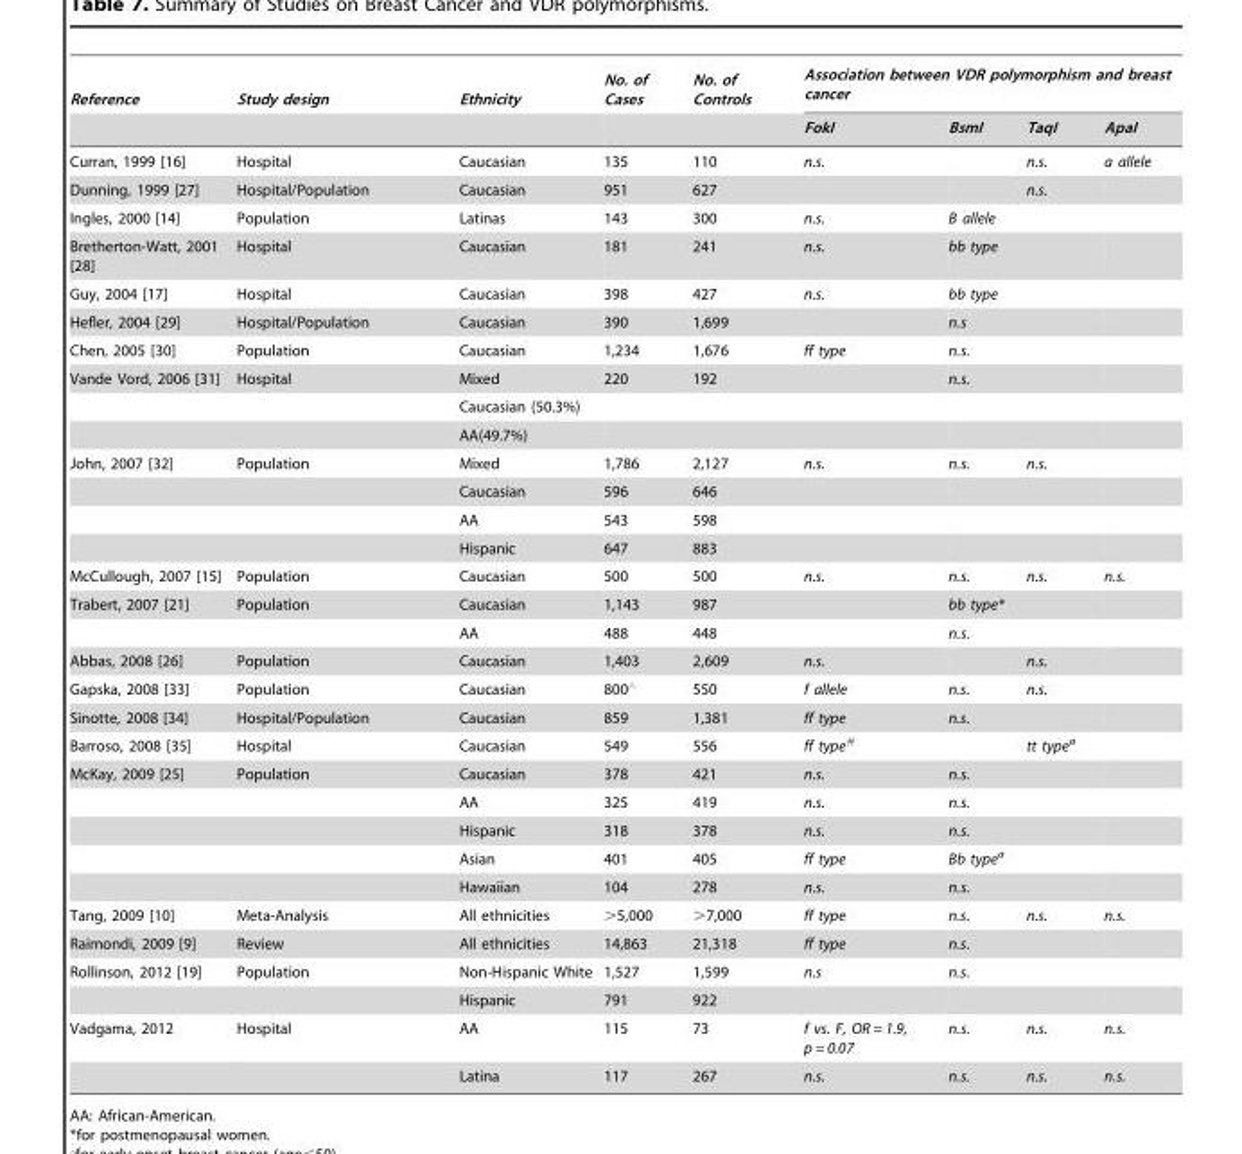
<table><thead><tr><td rowspan="2">Reference</td><td rowspan="2">Study design</td><td rowspan="2">Ethnicity</td><td rowspan="2">No. of Cases</td><td rowspan="2">No. of Controls</td><td colspan="4">Association between VDR polymorphism and breast cancer</td></tr><tr><td>FokI</td><td>BsmI</td><td>TaqI</td><td>ApaI</td></tr></thead><tbody><tr><td>Curran, 1999 [16]</td><td>Hospital</td><td>Caucasian</td><td>135</td><td>110</td><td>n.s.</td><td></td><td>n.s.</td><td>a allele</td></tr><tr><td>Dunning, 1999 [27]</td><td>Hospital/Population</td><td>Caucasian</td><td>951</td><td>627</td><td></td><td></td><td>n.s.</td><td></td></tr><tr><td>Ingles, 2000 [14]</td><td>Population</td><td>Latinas</td><td>143</td><td>300</td><td>n.s.</td><td>B allele</td><td></td><td></td></tr><tr><td>Bretherton-Watt, 2001 [28]</td><td>Hospital</td><td>Caucasian</td><td>181</td><td>241</td><td>n.s.</td><td>bb type</td><td></td><td></td></tr><tr><td>Guy, 2004 [17]</td><td>Hospital</td><td>Caucasian</td><td>398</td><td>427</td><td>n.s.</td><td>bb type</td><td></td><td></td></tr><tr><td>Hefler, 2004 [29]</td><td>Hospital/Population</td><td>Caucasian</td><td>390</td><td>1,699</td><td></td><td>n.s</td><td></td><td></td></tr><tr><td>Chen, 2005 [30]</td><td>Population</td><td>Caucasian</td><td>1,234</td><td>1,676</td><td>ff type</td><td>n.s.</td><td></td><td></td></tr><tr><td rowspan="3">Vande Vord, 2006 [31]</td><td>Hospital</td><td>Mixed</td><td>220</td><td>192</td><td></td><td>n.s.</td><td></td><td></td></tr><tr><td></td><td>Caucasian (50.3%)</td><td></td><td></td><td></td><td></td><td></td><td></td></tr><tr><td></td><td>AA(49.7%)</td><td></td><td></td><td></td><td></td><td></td><td></td></tr><tr><td rowspan="4">John, 2007 [32]</td><td>Population</td><td>Mixed</td><td>1,786</td><td>2,127</td><td>n.s.</td><td>n.s.</td><td>n.s.</td><td></td></tr><tr><td></td><td>Caucasian</td><td>596</td><td>646</td><td></td><td></td><td></td><td></td></tr><tr><td></td><td>AA</td><td>543</td><td>598</td><td></td><td></td><td></td><td></td></tr><tr><td></td><td>Hispanic</td><td>647</td><td>883</td><td></td><td></td><td></td><td></td></tr><tr><td>McCullough, 2007 [15]</td><td>Population</td><td>Caucasian</td><td>500</td><td>500</td><td>n.s.</td><td>n.s.</td><td>n.s.</td><td>n.s.</td></tr><tr><td rowspan="2">Trabert, 2007 [21]</td><td>Population</td><td>Caucasian</td><td>1,143</td><td>987</td><td></td><td>bb type*</td><td></td><td></td></tr><tr><td></td><td>AA</td><td>488</td><td>448</td><td></td><td>n.s.</td><td></td><td></td></tr><tr><td>Abbas, 2008 [26]</td><td>Population</td><td>Caucasian</td><td>1,403</td><td>2,609</td><td>n.s.</td><td></td><td>n.s.</td><td></td></tr><tr><td>Gapska, 2008 [33]</td><td>Population</td><td>Caucasian</td><td>800‘</td><td>550</td><td>f allele</td><td>n.s.</td><td>n.s.</td><td></td></tr><tr><td>Sinotte, 2008 [34]</td><td>Hospital/Population</td><td>Caucasian</td><td>859</td><td>1,381</td><td>ff type</td><td>n.s.</td><td></td><td></td></tr><tr><td>Barroso, 2008 [35]</td><td>Hospital</td><td>Caucasian</td><td>549</td><td>556</td><td>ff type#</td><td></td><td>tt typea</td><td></td></tr><tr><td rowspan="5">McKay, 2009 [25]</td><td>Population</td><td>Caucasian</td><td>378</td><td>421</td><td>n.s.</td><td>n.s.</td><td></td><td></td></tr><tr><td></td><td>AA</td><td>325</td><td>419</td><td>n.s.</td><td>n.s.</td><td></td><td></td></tr><tr><td></td><td>Hispanic</td><td>318</td><td>378</td><td>n.s.</td><td>n.s.</td><td></td><td></td></tr><tr><td></td><td>Asian</td><td>401</td><td>405</td><td>ff type</td><td>Bb type<sup>a</sup></td><td></td><td></td></tr><tr><td></td><td>Hawaiian</td><td>104</td><td>278</td><td>n.s.</td><td>n.s.</td><td></td><td></td></tr><tr><td>Tang, 2009 [10]</td><td>Meta-Analysis</td><td>All ethnicities</td><td>&gt;5,000</td><td>&gt;7,000</td><td>ff type</td><td>n.s.</td><td>n.s.</td><td>n.s.</td></tr><tr><td>Raimondi, 2009 [9]</td><td>Review</td><td>All ethnicities</td><td>14,863</td><td>21,318</td><td>ff type</td><td>n.s.</td><td></td><td></td></tr><tr><td rowspan="2">Rollinson, 2012 [19]</td><td>Population</td><td>Non-Hispanic White</td><td>1,527</td><td>1,599</td><td>n.s</td><td>n.s.</td><td></td><td></td></tr><tr><td></td><td>Hispanic</td><td>791</td><td>922</td><td></td><td></td><td></td><td></td></tr><tr><td rowspan="2">Vadgama, 2012</td><td>Hospital</td><td>AA</td><td>115</td><td>73</td><td>f vs. F, OR = 1.9, p = 0.07</td><td>n.s.</td><td>n.s.</td><td>n.s.</td></tr><tr><td></td><td>Latina</td><td>117</td><td>267</td><td>n.s.</td><td>n.s.</td><td>n.s.</td><td>n.s.</td></tr></tbody></table>